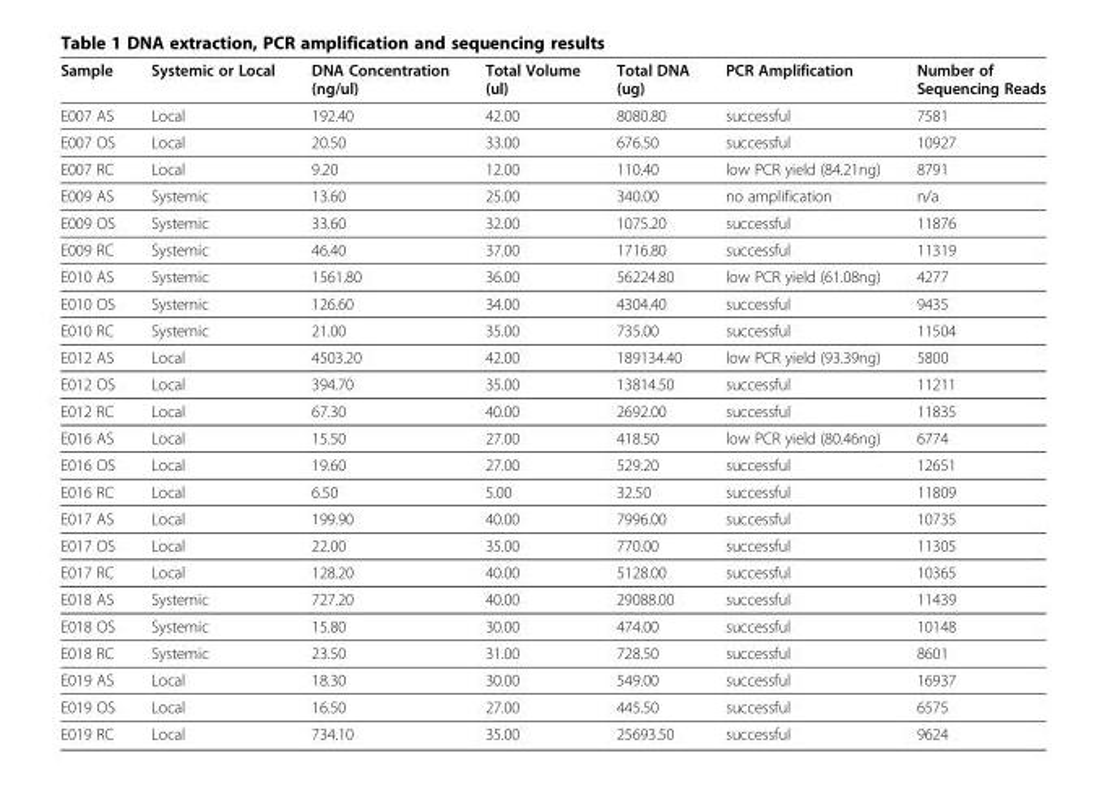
<table><thead><tr><td>Sample</td><td>Systemic or Local</td><td>DNA Concentration (ng/ul)</td><td>Total Volume (ul)</td><td>Total DNA (ug)</td><td>PCR Amplification</td><td>Number of Sequencing Reads</td></tr></thead><tbody><tr><td>E007 AS</td><td>Local</td><td>192.40</td><td>42.00</td><td>8080.80</td><td>successful</td><td>7581</td></tr><tr><td>E007 OS</td><td>Local</td><td>20.50</td><td>33.00</td><td>676.50</td><td>successful</td><td>10927</td></tr><tr><td>E007 RC</td><td>Local</td><td>9.20</td><td>12.00</td><td>110.40</td><td>low PCR yield (84.21ng)</td><td>8791</td></tr><tr><td>E009 AS</td><td>Systemic</td><td>13.60</td><td>25.00</td><td>340.00</td><td>no amplification</td><td>n/a</td></tr><tr><td>E009 OS</td><td>Systemic</td><td>33.60</td><td>32.00</td><td>1075.20</td><td>successful</td><td>11876</td></tr><tr><td>E009 RC</td><td>Systemic</td><td>46.40</td><td>37.00</td><td>1716.80</td><td>successful</td><td>11319</td></tr><tr><td>E010 AS</td><td>Systemic</td><td>1561.80</td><td>36.00</td><td>56224.80</td><td>low PCR yield (61.08ng)</td><td>4277</td></tr><tr><td>E010 OS</td><td>Systemic</td><td>126.60</td><td>34.00</td><td>4304.40</td><td>successful</td><td>9435</td></tr><tr><td>E010 RC</td><td>Systemic</td><td>21.00</td><td>35.00</td><td>735.00</td><td>successful</td><td>11504</td></tr><tr><td>E012 AS</td><td>Local</td><td>4503.20</td><td>42.00</td><td>189134.40</td><td>low PCR yield (93.39ng)</td><td>5800</td></tr><tr><td>E012 OS</td><td>Local</td><td>394.70</td><td>35.00</td><td>13814.50</td><td>successful</td><td>11211</td></tr><tr><td>E012 RC</td><td>Local</td><td>67.30</td><td>40.00</td><td>2692.00</td><td>successful</td><td>11835</td></tr><tr><td>E016 AS</td><td>Local</td><td>15.50</td><td>27.00</td><td>418.50</td><td>low PCR yield (80.46ng)</td><td>6774</td></tr><tr><td>E016 OS</td><td>Local</td><td>19.60</td><td>27.00</td><td>529.20</td><td>successful</td><td>12651</td></tr><tr><td>E016 RC</td><td>Local</td><td>6.50</td><td>5.00</td><td>32.50</td><td>successful</td><td>11809</td></tr><tr><td>E017 AS</td><td>Local</td><td>199.90</td><td>40.00</td><td>7996.00</td><td>successful</td><td>10735</td></tr><tr><td>E017 OS</td><td>Local</td><td>22.00</td><td>35.00</td><td>770.00</td><td>successful</td><td>11305</td></tr><tr><td>E017 RC</td><td>Local</td><td>128.20</td><td>40.00</td><td>5128.00</td><td>successful</td><td>10365</td></tr><tr><td>E018 AS</td><td>Systemic</td><td>727.20</td><td>40.00</td><td>29088.00</td><td>successful</td><td>11439</td></tr><tr><td>E018 OS</td><td>Systemic</td><td>15.80</td><td>30.00</td><td>474.00</td><td>successful</td><td>10148</td></tr><tr><td>E018 RC</td><td>Systemic</td><td>23.50</td><td>31.00</td><td>728.50</td><td>successful</td><td>8601</td></tr><tr><td>E019 AS</td><td>Local</td><td>18.30</td><td>30.00</td><td>549.00</td><td>successful</td><td>16937</td></tr><tr><td>E019 OS</td><td>Local</td><td>16.50</td><td>27.00</td><td>445.50</td><td>successful</td><td>6575</td></tr><tr><td>E019 RC</td><td>Local</td><td>734.10</td><td>35.00</td><td>25693.50</td><td>successful</td><td>9624</td></tr></tbody></table>